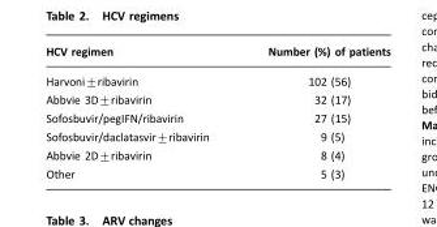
<table><thead><tr><td>HCV regimen</td><td>Number (%) of patients</td></tr></thead><tbody><tr><td>Harvoni±ribavirin</td><td>102 (56)</td></tr><tr><td>Abbvie 3D±ribavirin</td><td>32 (17)</td></tr><tr><td>Sofosbuvir/pegIFN/ribavirin</td><td>27 (15)</td></tr><tr><td>Sofosbuvir/daclatasvir±ribavirin</td><td>9 (5)</td></tr><tr><td>Abbvie 2D±ribavirin</td><td>8 (4)</td></tr><tr><td>Other</td><td>5 (3)</td></tr></tbody></table>